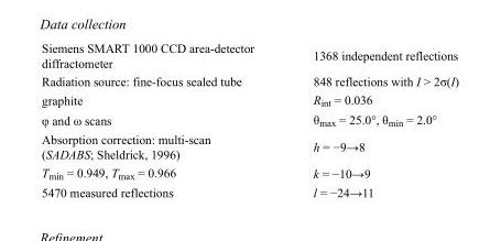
<table><tbody><tr><td>Siemens SMART 1000 CCD area-detector diffractometer</td><td>1368 independent reflections</td></tr><tr><td>Radiation source: fine-focus sealed tube</td><td>848 reflections with I &gt; 2σ(I)</td></tr><tr><td>graphite</td><td>R<sub>int</sub> = 0.036</td></tr><tr><td>φ and ω scans</td><td>θ<sub>max</sub> = 25.0°, θ<sub>min</sub> = 2.0°</td></tr><tr><td>Absorption correction: multi-scan (SADABS; Sheldrick, 1996)</td><td>h = −9→8</td></tr><tr><td>T<sub>min</sub> = 0.949, T<sub>max</sub> = 0.966</td><td>k = −10→9</td></tr><tr><td>5470 measured reflections</td><td>l = −24→11</td></tr></tbody></table>